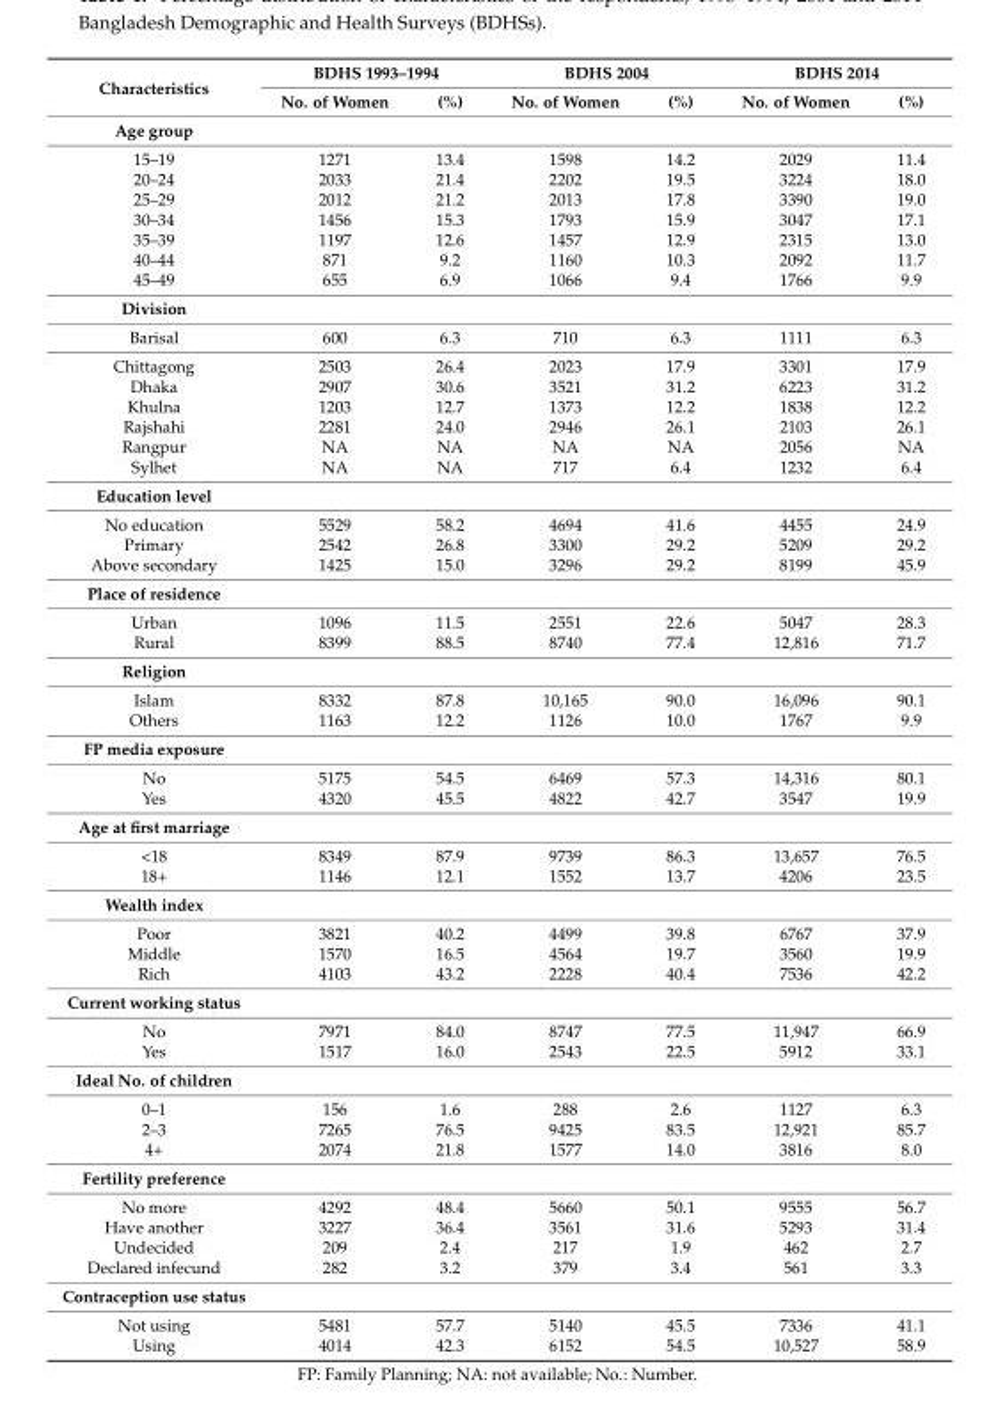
<table><thead><tr><td rowspan="2">Characteristics</td><td colspan="2">BDHS 1993–1994</td><td colspan="2">BDHS 2004</td><td colspan="2">BDHS 2014</td></tr><tr><td>No. of Women</td><td>(%)</td><td>No. of Women</td><td>(%)</td><td>No. of Women</td><td>(%)</td></tr></thead><tbody><tr><td colspan="7">Age group</td></tr><tr><td>15–19</td><td>1271</td><td>13.4</td><td>1598</td><td>14.2</td><td>2029</td><td>11.4</td></tr><tr><td>20–24</td><td>2033</td><td>21.4</td><td>2202</td><td>19.5</td><td>3224</td><td>18.0</td></tr><tr><td>25–29</td><td>2012</td><td>21.2</td><td>2013</td><td>17.8</td><td>3390</td><td>19.0</td></tr><tr><td>30–34</td><td>1456</td><td>15.3</td><td>1793</td><td>15.9</td><td>3047</td><td>17.1</td></tr><tr><td>35–39</td><td>1197</td><td>12.6</td><td>1457</td><td>12.9</td><td>2315</td><td>13.0</td></tr><tr><td>40–44</td><td>871</td><td>9.2</td><td>1160</td><td>10.3</td><td>2092</td><td>11.7</td></tr><tr><td>45–49</td><td>655</td><td>6.9</td><td>1066</td><td>9.4</td><td>1766</td><td>9.9</td></tr><tr><td colspan="7">Division</td></tr><tr><td>Barisal</td><td>600</td><td>6.3</td><td>710</td><td>6.3</td><td>1111</td><td>6.3</td></tr><tr><td>Chittagong</td><td>2503</td><td>26.4</td><td>2023</td><td>17.9</td><td>3301</td><td>17.9</td></tr><tr><td>Dhaka</td><td>2907</td><td>30.6</td><td>3521</td><td>31.2</td><td>6223</td><td>31.2</td></tr><tr><td>Khulna</td><td>1203</td><td>12.7</td><td>1373</td><td>12.2</td><td>1838</td><td>12.2</td></tr><tr><td>Rajshahi</td><td>2281</td><td>24.0</td><td>2946</td><td>26.1</td><td>2103</td><td>26.1</td></tr><tr><td>Rangpur</td><td>NA</td><td>NA</td><td>NA</td><td>NA</td><td>2056</td><td>NA</td></tr><tr><td>Sylhet</td><td>NA</td><td>NA</td><td>717</td><td>6.4</td><td>1232</td><td>6.4</td></tr><tr><td colspan="7">Education level</td></tr><tr><td>No education</td><td>5529</td><td>58.2</td><td>4694</td><td>41.6</td><td>4455</td><td>24.9</td></tr><tr><td>Primary</td><td>2542</td><td>26.8</td><td>3300</td><td>29.2</td><td>5209</td><td>29.2</td></tr><tr><td>Above secondary</td><td>1425</td><td>15.0</td><td>3296</td><td>29.2</td><td>8199</td><td>45.9</td></tr><tr><td colspan="7">Place of residence</td></tr><tr><td>Urban</td><td>1096</td><td>11.5</td><td>2551</td><td>22.6</td><td>5047</td><td>28.3</td></tr><tr><td>Rural</td><td>8399</td><td>88.5</td><td>8740</td><td>77.4</td><td>12,816</td><td>71.7</td></tr><tr><td colspan="7">Religion</td></tr><tr><td>Islam</td><td>8332</td><td>87.8</td><td>10,165</td><td>90.0</td><td>16,096</td><td>90.1</td></tr><tr><td>Others</td><td>1163</td><td>12.2</td><td>1126</td><td>10.0</td><td>1767</td><td>9.9</td></tr><tr><td colspan="7">FP media exposure</td></tr><tr><td>No</td><td>5175</td><td>54.5</td><td>6469</td><td>57.3</td><td>14,316</td><td>80.1</td></tr><tr><td>Yes</td><td>4320</td><td>45.5</td><td>4822</td><td>42.7</td><td>3547</td><td>19.9</td></tr><tr><td colspan="7">Age at first marriage</td></tr><tr><td>&lt;18</td><td>8349</td><td>87.9</td><td>9739</td><td>86.3</td><td>13,657</td><td>76.5</td></tr><tr><td>18+</td><td>1146</td><td>12.1</td><td>1552</td><td>13.7</td><td>4206</td><td>23.5</td></tr><tr><td colspan="7">Wealth index</td></tr><tr><td>Poor</td><td>3821</td><td>40.2</td><td>4499</td><td>39.8</td><td>6767</td><td>37.9</td></tr><tr><td>Middle</td><td>1570</td><td>16.5</td><td>4564</td><td>19.7</td><td>3560</td><td>19.9</td></tr><tr><td>Rich</td><td>4103</td><td>43.2</td><td>2228</td><td>40.4</td><td>7536</td><td>42.2</td></tr><tr><td colspan="7">Current working status</td></tr><tr><td>No</td><td>7971</td><td>84.0</td><td>8747</td><td>77.5</td><td>11,947</td><td>66.9</td></tr><tr><td>Yes</td><td>1517</td><td>16.0</td><td>2543</td><td>22.5</td><td>5912</td><td>33.1</td></tr><tr><td colspan="7">Ideal No. of children</td></tr><tr><td>0–1</td><td>156</td><td>1.6</td><td>288</td><td>2.6</td><td>1127</td><td>6.3</td></tr><tr><td>2–3</td><td>7265</td><td>76.5</td><td>9425</td><td>83.5</td><td>12,921</td><td>85.7</td></tr><tr><td>4+</td><td>2074</td><td>21.8</td><td>1577</td><td>14.0</td><td>3816</td><td>8.0</td></tr><tr><td colspan="7">Fertility preference</td></tr><tr><td>No more</td><td>4292</td><td>48.4</td><td>5660</td><td>50.1</td><td>9555</td><td>56.7</td></tr><tr><td>Have another</td><td>3227</td><td>36.4</td><td>3561</td><td>31.6</td><td>5293</td><td>31.4</td></tr><tr><td>Undecided</td><td>209</td><td>2.4</td><td>217</td><td>1.9</td><td>462</td><td>2.7</td></tr><tr><td>Declared infecund</td><td>282</td><td>3.2</td><td>379</td><td>3.4</td><td>561</td><td>3.3</td></tr><tr><td colspan="7">Contraception use status</td></tr><tr><td>Not using</td><td>5481</td><td>57.7</td><td>5140</td><td>45.5</td><td>7336</td><td>41.1</td></tr><tr><td>Using</td><td>4014</td><td>42.3</td><td>6152</td><td>54.5</td><td>10,527</td><td>58.9</td></tr></tbody></table>